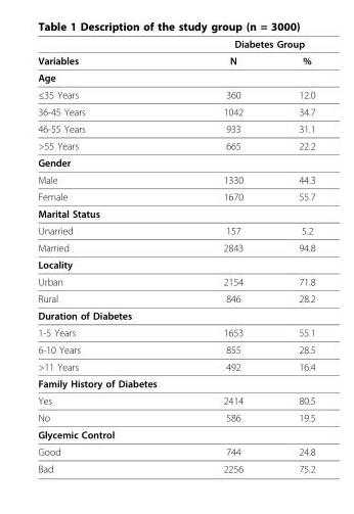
<table><thead><tr><td rowspan="2">Variables</td><td colspan="2">Diabetes Group</td></tr><tr><td>N</td><td>%</td></tr></thead><tbody><tr><td colspan="3">Age</td></tr><tr><td>≤35 Years</td><td>360</td><td>12.0</td></tr><tr><td>36-45 Years</td><td>1042</td><td>34.7</td></tr><tr><td>46-55 Years</td><td>933</td><td>31.1</td></tr><tr><td>&gt;55 Years</td><td>665</td><td>22.2</td></tr><tr><td colspan="3">Gender</td></tr><tr><td>Male</td><td>1330</td><td>44.3</td></tr><tr><td>Female</td><td>1670</td><td>55.7</td></tr><tr><td colspan="3">Marital Status</td></tr><tr><td>Unarried</td><td>157</td><td>5.2</td></tr><tr><td>Married</td><td>2843</td><td>94.8</td></tr><tr><td colspan="3">Locality</td></tr><tr><td>Urban</td><td>2154</td><td>71.8</td></tr><tr><td>Rural</td><td>846</td><td>28.2</td></tr><tr><td colspan="3">Duration of Diabetes</td></tr><tr><td>1-5 Years</td><td>1653</td><td>55.1</td></tr><tr><td>6-10 Years</td><td>855</td><td>28.5</td></tr><tr><td>&gt;11 Years</td><td>492</td><td>16.4</td></tr><tr><td colspan="3">Family History of Diabetes</td></tr><tr><td>Yes</td><td>2414</td><td>80.5</td></tr><tr><td>No</td><td>586</td><td>19.5</td></tr><tr><td colspan="3">Glycemic Control</td></tr><tr><td>Good</td><td>744</td><td>24.8</td></tr><tr><td>Bad</td><td>2256</td><td>75.2</td></tr></tbody></table>